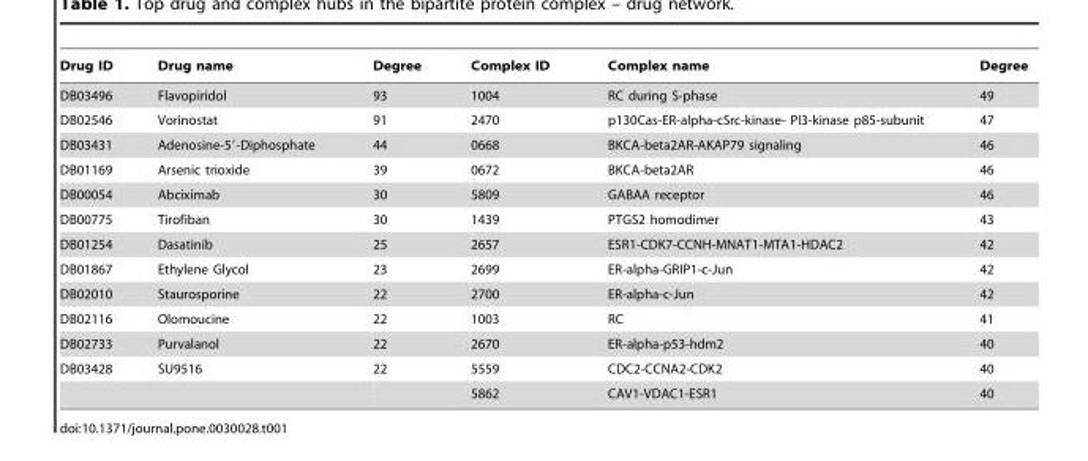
<table><thead><tr><td>Drug ID</td><td>Drug name</td><td>Degree</td><td>Complex ID</td><td>Complex name</td><td>Degree</td></tr></thead><tbody><tr><td>DB03496</td><td>Flavopiridol</td><td>93</td><td>1004</td><td>RC during S-phase</td><td>49</td></tr><tr><td>DB02546</td><td>Vorinostat</td><td>91</td><td>2470</td><td>p130Cas-ER-alpha-cSrc-kinase- PI3-kinase p85-subunit</td><td>47</td></tr><tr><td>DB03431</td><td>Adenosine-5′-Diphosphate</td><td>44</td><td>0668</td><td>BKCA-beta2AR-AKAP79 signaling</td><td>46</td></tr><tr><td>DB01169</td><td>Arsenic trioxide</td><td>39</td><td>0672</td><td>BKCA-beta2AR</td><td>46</td></tr><tr><td>DB00054</td><td>Abciximab</td><td>30</td><td>5809</td><td>GABAA receptor</td><td>46</td></tr><tr><td>DB00775</td><td>Tirofiban</td><td>30</td><td>1439</td><td>PTGS2 homodimer</td><td>43</td></tr><tr><td>DB01254</td><td>Dasatinib</td><td>25</td><td>2657</td><td>ESR1-CDK7-CCNH-MNAT1-MTA1-HDAC2</td><td>42</td></tr><tr><td>DB01867</td><td>Ethylene Glycol</td><td>23</td><td>2699</td><td>ER-alpha-GRIP1-c-Jun</td><td>42</td></tr><tr><td>DB02010</td><td>Staurosporine</td><td>22</td><td>2700</td><td>ER-alpha-c-Jun</td><td>42</td></tr><tr><td>DB02116</td><td>Olomoucine</td><td>22</td><td>1003</td><td>RC</td><td>41</td></tr><tr><td>DB02733</td><td>Purvalanol</td><td>22</td><td>2670</td><td>ER-alpha-p53-hdm2</td><td>40</td></tr><tr><td rowspan="2">DB03428</td><td>SU9516</td><td>22</td><td>5559</td><td>CDC2-CCNA2-CDK2</td><td>40</td></tr><tr><td></td><td></td><td>5862</td><td>CAV1-VDAC1-ESR1</td><td>40</td></tr></tbody></table>